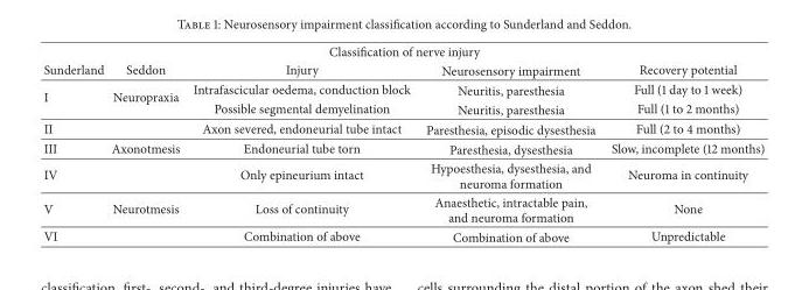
<table><thead><tr><td colspan="5">Classification of nerve injury</td></tr><tr><td>Sunderland</td><td>Seddon</td><td>Injury</td><td>Neurosensory impairment</td><td>Recovery potential</td></tr></thead><tbody><tr><td rowspan="2">I</td><td rowspan="2">Neuropraxia</td><td>Intrafascicular oedema, conduction block</td><td>Neuritis, paresthesia</td><td>Full (1 day to 1 week)</td></tr><tr><td>Possible segmental demyelination</td><td>Neuritis, paresthesia</td><td>Full (1 to 2 months)</td></tr><tr><td>II</td><td></td><td>Axon severed, endoneurial tube intact</td><td>Paresthesia, episodic dysesthesia</td><td>Full (2 to 4 months)</td></tr><tr><td>III</td><td>Axonotmesis</td><td>Endoneurial tube torn</td><td>Paresthesia, dysesthesia</td><td>Slow, incomplete (12 months)</td></tr><tr><td>IV</td><td></td><td>Only epineurium intact</td><td>Hypoesthesia, dysesthesia, and neuroma formation</td><td>Neuroma in continuity</td></tr><tr><td>V</td><td>Neurotmesis</td><td>Loss of continuity</td><td>Anaesthetic, intractable pain, and neuroma formation</td><td>None</td></tr><tr><td>VI</td><td></td><td>Combination of above</td><td>Combination of above</td><td>Unpredictable</td></tr></tbody></table>